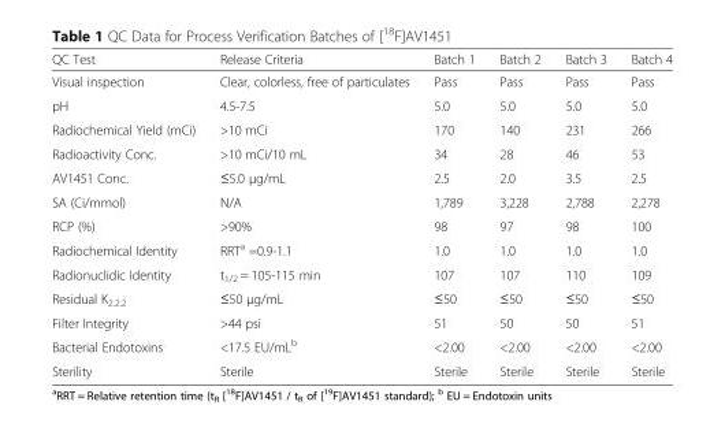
<table><thead><tr><td>QC Test</td><td>Release Criteria</td><td>Batch 1</td><td>Batch 2</td><td>Batch 3</td><td>Batch 4</td></tr></thead><tbody><tr><td>Visual inspection</td><td>Clear, colorless, free of particulates</td><td>Pass</td><td>Pass</td><td>Pass</td><td>Pass</td></tr><tr><td>pH</td><td>4.5-7.5</td><td>5.0</td><td>5.0</td><td>5.0</td><td>5.0</td></tr><tr><td>Radiochemical Yield (mCi)</td><td>&gt;10 mCi</td><td>170</td><td>140</td><td>231</td><td>266</td></tr><tr><td>Radioactivity Conc.</td><td>&gt;10 mCi/10 mL</td><td>34</td><td>28</td><td>46</td><td>53</td></tr><tr><td>AV1451 Conc.</td><td>≤5.0 μg/mL</td><td>2.5</td><td>2.0</td><td>3.5</td><td>2.5</td></tr><tr><td>SA (Ci/mmol)</td><td>N/A</td><td>1,789</td><td>3,228</td><td>2,788</td><td>2,278</td></tr><tr><td>RCP (%)</td><td>&gt;90%</td><td>98</td><td>97</td><td>98</td><td>100</td></tr><tr><td>Radiochemical Identity</td><td>RRT<sup>a</sup> =0.9-1.1</td><td>1.0</td><td>1.0</td><td>1.0</td><td>1.0</td></tr><tr><td>Radionuclidic Identity</td><td>t<sub>1/2</sub> = 105-115 min</td><td>107</td><td>107</td><td>110</td><td>109</td></tr><tr><td>Residual K<sub>2.2.2</sub></td><td>≤50 μg/mL</td><td>≤50</td><td>≤50</td><td>≤50</td><td>≤50</td></tr><tr><td>Filter Integrity</td><td>&gt;44 psi</td><td>51</td><td>50</td><td>50</td><td>51</td></tr><tr><td>Bacterial Endotoxins</td><td>&lt;17.5 EU/mL<sup>b</sup></td><td>&lt;2.00</td><td>&lt;2.00</td><td>&lt;2.00</td><td>&lt;2.00</td></tr><tr><td>Sterility</td><td>Sterile</td><td>Sterile</td><td>Sterile</td><td>Sterile</td><td>Sterile</td></tr></tbody></table>